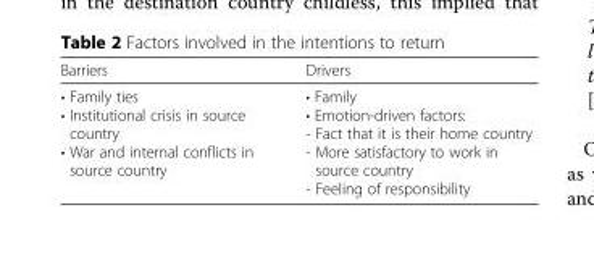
<table><thead><tr><td>Barriers</td><td>Drivers</td></tr></thead><tbody><tr><td>• Family ties • Institutional crisis in source country • War and internal conflicts in source country</td><td>• Family • Emotion-driven factors: - Fact that it is their home country - More satisfactory to work in source country - Feeling of responsibility</td></tr></tbody></table>